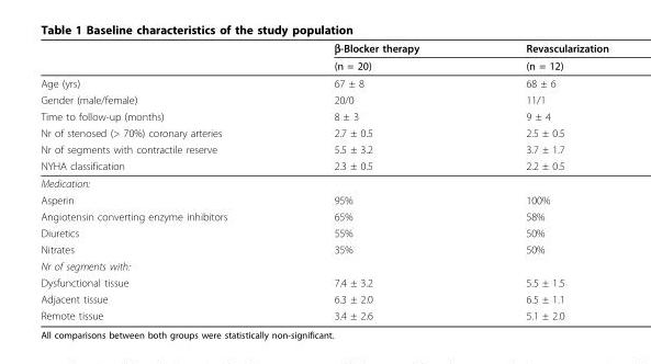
<table><thead><tr><td rowspan="2"></td><td rowspan="2">β-Blocker therapy (n = 20)</td><td rowspan="2">Revascularization (n = 12)</td></tr><tr></tr></thead><tbody><tr><td>Age (yrs)</td><td>67 ± 8</td><td>68 ± 6</td></tr><tr><td>Gender (male/female)</td><td>20/0</td><td>11/1</td></tr><tr><td>Time to follow-up (months)</td><td>8 ± 3</td><td>9 ± 4</td></tr><tr><td>Nr of stenosed (&gt; 70%) coronary arteries</td><td>2.7 ± 0.5</td><td>2.5 ± 0.5</td></tr><tr><td>Nr of segments with contractile reserve</td><td>5.5 ± 3.2</td><td>3.7 ± 1.7</td></tr><tr><td>NYHA classification</td><td>2.3 ± 0.5</td><td>2.2 ± 0.5</td></tr><tr><td colspan="3">Medication:</td></tr><tr><td>Asperin</td><td>95%</td><td>100%</td></tr><tr><td>Angiotensin converting enzyme inhibitors</td><td>65%</td><td>58%</td></tr><tr><td>Diuretics</td><td>55%</td><td>50%</td></tr><tr><td>Nitrates</td><td>35%</td><td>50%</td></tr><tr><td colspan="3">Nr of segments with:</td></tr><tr><td>Dysfunctional tissue</td><td>7.4 ± 3.2</td><td>5.5 ± 1.5</td></tr><tr><td>Adjacent tissue</td><td>6.3 ± 2.0</td><td>6.5 ± 1.1</td></tr><tr><td>Remote tissue</td><td>3.4 ± 2.6</td><td>5.1 ± 2.0</td></tr></tbody></table>